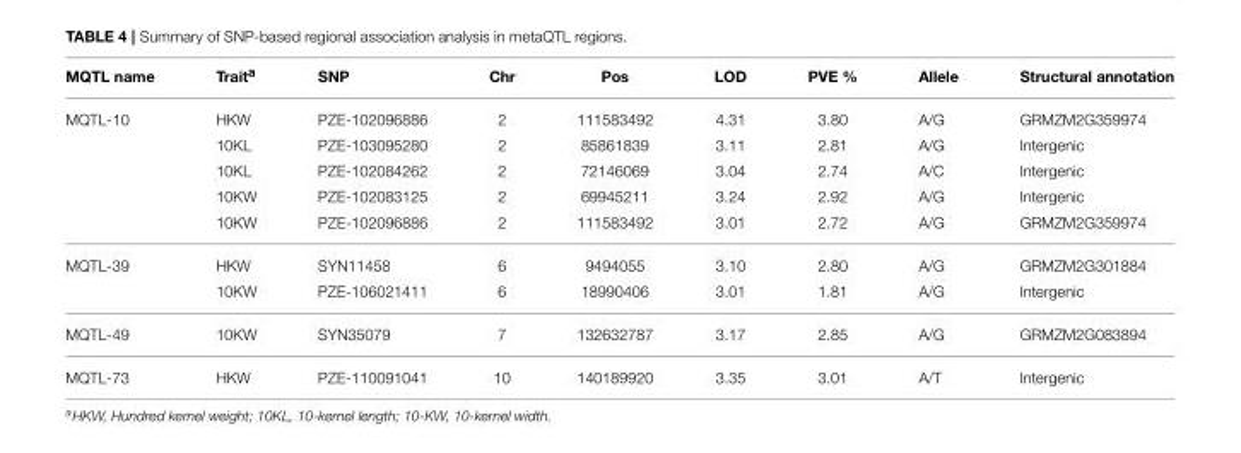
<table><thead><tr><td>MQTL name</td><td>Trait<sup>a</sup></td><td>SNP</td><td>Chr</td><td>Pos</td><td>LOD</td><td>PVE %</td><td>Allele</td><td>Structural annotation</td></tr></thead><tbody><tr><td rowspan="5">MQTL-10</td><td>HKW</td><td>PZE-102096886</td><td>2</td><td>111583492</td><td>4.31</td><td>3.80</td><td>A/G</td><td>GRMZM2G359974</td></tr><tr><td>10KL</td><td>PZE-103095280</td><td>2</td><td>85861839</td><td>3.11</td><td>2.81</td><td>A/G</td><td>Intergenic</td></tr><tr><td>10KL</td><td>PZE-102084262</td><td>2</td><td>72146069</td><td>3.04</td><td>2.74</td><td>A/C</td><td>Intergenic</td></tr><tr><td>10KW</td><td>PZE-102083125</td><td>2</td><td>69945211</td><td>3.24</td><td>2.92</td><td>A/G</td><td>Intergenic</td></tr><tr><td>10KW</td><td>PZE-102096886</td><td>2</td><td>111583492</td><td>3.01</td><td>2.72</td><td>A/G</td><td>GRMZM2G359974</td></tr><tr><td rowspan="2">MQTL-39</td><td>HKW</td><td>SYN11458</td><td>6</td><td>9494055</td><td>3.10</td><td>2.80</td><td>A/G</td><td>GRMZM2G301884</td></tr><tr><td>10KW</td><td>PZE-106021411</td><td>6</td><td>18990406</td><td>3.01</td><td>1.81</td><td>A/G</td><td>Intergenic</td></tr><tr><td>MQTL-49</td><td>10KW</td><td>SYN35079</td><td>7</td><td>132632787</td><td>3.17</td><td>2.85</td><td>A/G</td><td>GRMZM2G083894</td></tr><tr><td>MQTL-73</td><td>HKW</td><td>PZE-110091041</td><td>10</td><td>140189920</td><td>3.35</td><td>3.01</td><td>A/T</td><td>Intergenic</td></tr></tbody></table>